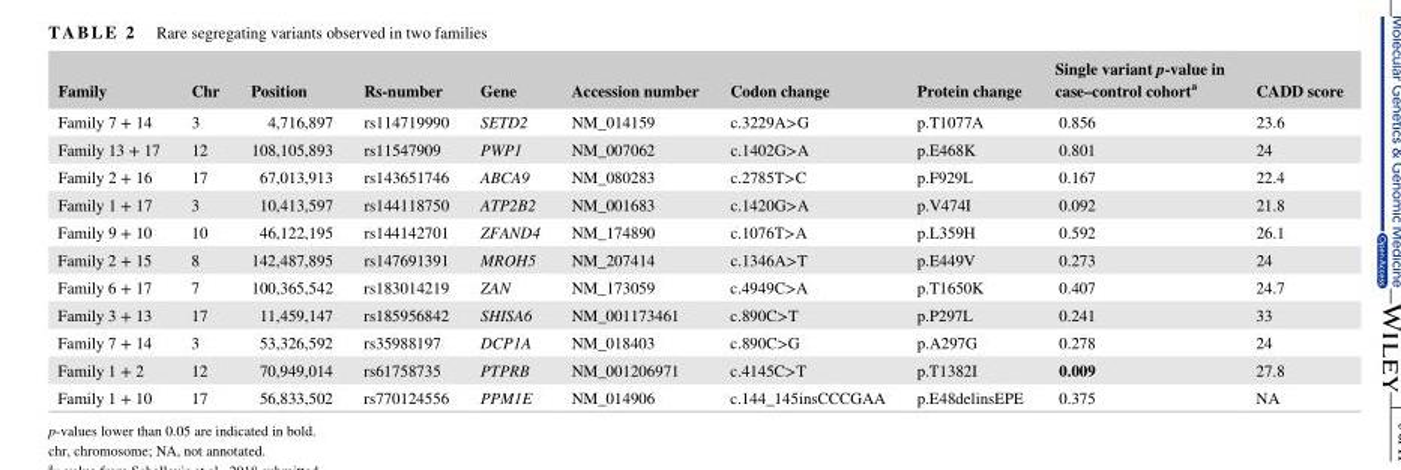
<table><thead><tr><td>Family</td><td>Chr</td><td>Position</td><td>Rs‐number</td><td>Gene</td><td>Accession number</td><td>Codon change</td><td>Protein change</td><td>Single variant p‐value in case–control cohort<sup>a</sup></td><td>CADD score</td></tr></thead><tbody><tr><td>Family 7 + 14</td><td>3</td><td>4,716,897</td><td>rs114719990</td><td>SETD2</td><td>NM_014159</td><td>c.3229A&gt;G</td><td>p.T1077A</td><td>0.856</td><td>23.6</td></tr><tr><td>Family 13 + 17</td><td>12</td><td>108,105,893</td><td>rs11547909</td><td>PWP1</td><td>NM_007062</td><td>c.1402G&gt;A</td><td>p.E468K</td><td>0.801</td><td>24</td></tr><tr><td>Family 2 + 16</td><td>17</td><td>67,013,913</td><td>rs143651746</td><td>ABCA9</td><td>NM_080283</td><td>c.2785T&gt;C</td><td>p.F929L</td><td>0.167</td><td>22.4</td></tr><tr><td>Family 1 + 17</td><td>3</td><td>10,413,597</td><td>rs144118750</td><td>ATP2B2</td><td>NM_001683</td><td>c.1420G&gt;A</td><td>p.V474I</td><td>0.092</td><td>21.8</td></tr><tr><td>Family 9 + 10</td><td>10</td><td>46,122,195</td><td>rs144142701</td><td>ZFAND4</td><td>NM_174890</td><td>c.1076T&gt;A</td><td>p.L359H</td><td>0.592</td><td>26.1</td></tr><tr><td>Family 2 + 15</td><td>8</td><td>142,487,895</td><td>rs147691391</td><td>MROH5</td><td>NM_207414</td><td>c.1346A&gt;T</td><td>p.E449V</td><td>0.273</td><td>24</td></tr><tr><td>Family 6 + 17</td><td>7</td><td>100,365,542</td><td>rs183014219</td><td>ZAN</td><td>NM_173059</td><td>c.4949C&gt;A</td><td>p.T1650K</td><td>0.407</td><td>24.7</td></tr><tr><td>Family 3 + 13</td><td>17</td><td>11,459,147</td><td>rs185956842</td><td>SHISA6</td><td>NM_001173461</td><td>c.890C&gt;T</td><td>p.P297L</td><td>0.241</td><td>33</td></tr><tr><td>Family 7 + 14</td><td>3</td><td>53,326,592</td><td>rs35988197</td><td>DCP1A</td><td>NM_018403</td><td>c.890C&gt;G</td><td>p.A297G</td><td>0.278</td><td>24</td></tr><tr><td>Family 1 + 2</td><td>12</td><td>70,949,014</td><td>rs61758735</td><td>PTPRB</td><td>NM_001206971</td><td>c.4145C&gt;T</td><td>p.T1382I</td><td>0.009</td><td>27.8</td></tr><tr><td>Family 1 + 10</td><td>17</td><td>56,833,502</td><td>rs770124556</td><td>PPM1E</td><td>NM_014906</td><td>c.144_145insCCCGAA</td><td>p.E48delinsEPE</td><td>0.375</td><td>NA</td></tr></tbody></table>